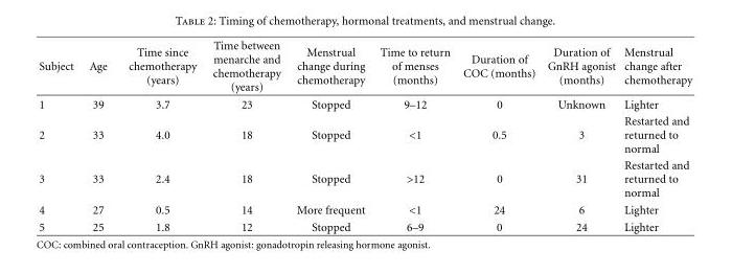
<table><thead><tr><td>Subject</td><td>Age</td><td>Time since chemotherapy (years)</td><td>Time between menarche and chemotherapy (years)</td><td>Menstrual change during chemotherapy</td><td>Time to return of menses (months)</td><td>Duration of COC (months)</td><td>Duration of GnRH agonist (months)</td><td>Menstrual change after chemotherapy</td></tr></thead><tbody><tr><td>1</td><td>39</td><td>3.7</td><td>23</td><td>Stopped</td><td>9–12</td><td>0</td><td>Unknown</td><td>Lighter</td></tr><tr><td>2</td><td>33</td><td>4.0</td><td>18</td><td>Stopped</td><td>&lt;1</td><td>0.5</td><td>3</td><td>Restarted and returned to normal</td></tr><tr><td>3</td><td>33</td><td>2.4</td><td>18</td><td>Stopped</td><td>&gt;12</td><td>0</td><td>31</td><td>Restarted and returned to normal</td></tr><tr><td>4</td><td>27</td><td>0.5</td><td>14</td><td>More frequent</td><td>&lt;1</td><td>24</td><td>6</td><td>Lighter</td></tr><tr><td>5</td><td>25</td><td>1.8</td><td>12</td><td>Stopped</td><td>6–9</td><td>0</td><td>24</td><td>Lighter</td></tr></tbody></table>